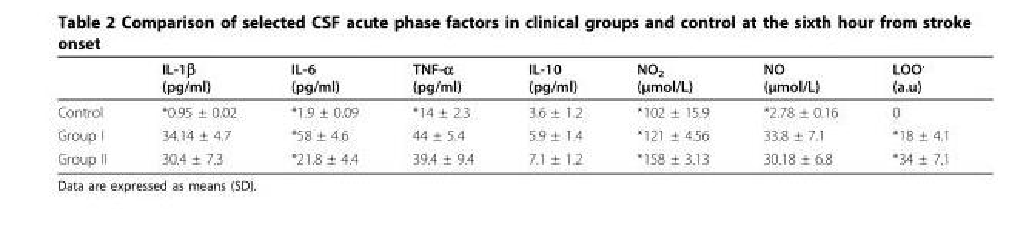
<table><thead><tr><td></td><td>IL-1β (pg/ml)</td><td>IL-6 (pg/ml)</td><td>TNF-α (pg/ml)</td><td>IL-10 (pg/ml)</td><td>NO<sub>2</sub> (μmol/L)</td><td>NO (μmol/L)</td><td>LOO<sup>.</sup> (a.u)</td></tr></thead><tbody><tr><td>Control</td><td>*0.95 ± 0.02</td><td>*1.9 ± 0.09</td><td>*14 ± 2.3</td><td>3.6 ± 1.2</td><td>*102 ± 15.9</td><td>*2.78 ± 0.16</td><td>0</td></tr><tr><td>Group I</td><td>34.14 ± 4.7</td><td>*58 ± 4.6</td><td>44 ± 5.4</td><td>5.9 ± 1.4</td><td>*121 ± 4.56</td><td>33.8 ± 7.1</td><td>*18 ± 4.1</td></tr><tr><td>Group II</td><td>30.4 ± 7.3</td><td>*21.8 ± 4.4</td><td>39.4 ± 9.4</td><td>7.1 ± 1.2</td><td>*158 ± 3.13</td><td>30.18 ± 6.8</td><td>*34 ± 7.1</td></tr></tbody></table>